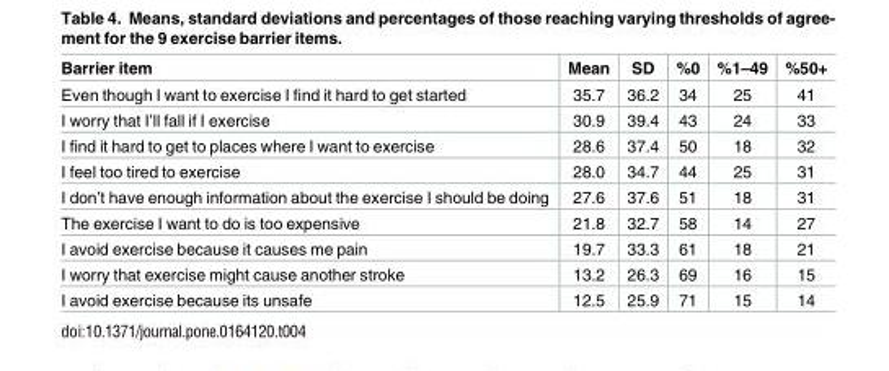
<table><thead><tr><td>Barrier item</td><td>Mean</td><td>SD</td><td>%0</td><td>%1–49</td><td>%50+</td></tr></thead><tbody><tr><td>Even though I want to exercise I find it hard to get started</td><td>35.7</td><td>36.2</td><td>34</td><td>25</td><td>41</td></tr><tr><td>I worry that I’ll fall if I exercise</td><td>30.9</td><td>39.4</td><td>43</td><td>24</td><td>33</td></tr><tr><td>I find it hard to get to places where I want to exercise</td><td>28.6</td><td>37.4</td><td>50</td><td>18</td><td>32</td></tr><tr><td>I feel too tired to exercise</td><td>28.0</td><td>34.7</td><td>44</td><td>25</td><td>31</td></tr><tr><td>I don’t have enough information about the exercise I should be doing</td><td>27.6</td><td>37.6</td><td>51</td><td>18</td><td>31</td></tr><tr><td>The exercise I want to do is too expensive</td><td>21.8</td><td>32.7</td><td>58</td><td>14</td><td>27</td></tr><tr><td>I avoid exercise because it causes me pain</td><td>19.7</td><td>33.3</td><td>61</td><td>18</td><td>21</td></tr><tr><td>I worry that exercise might cause another stroke</td><td>13.2</td><td>26.3</td><td>69</td><td>16</td><td>15</td></tr><tr><td>I avoid exercise because its unsafe</td><td>12.5</td><td>25.9</td><td>71</td><td>15</td><td>14</td></tr></tbody></table>